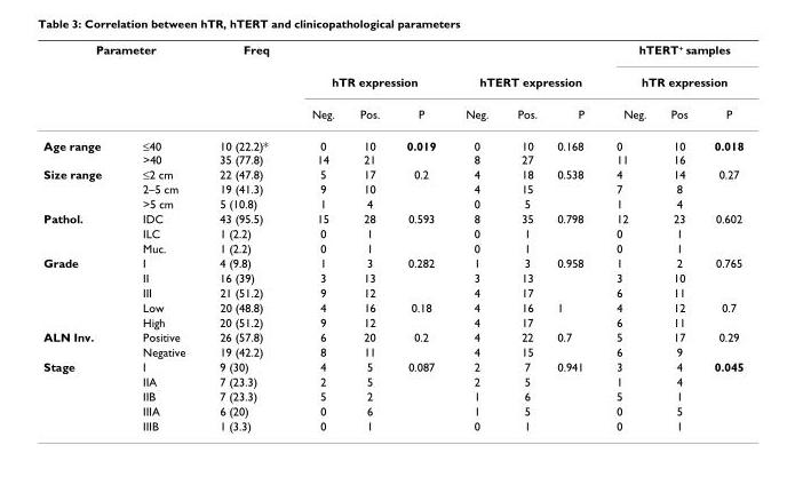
<table><thead><tr><td colspan="2">Parameter</td><td rowspan="3">Freq</td><td></td><td></td><td></td><td></td><td></td><td></td><td rowspan="2" colspan="3">hTERT<sup>+</sup> samples hTR expression</td></tr><tr><td rowspan="2"></td><td rowspan="2"></td><td colspan="3">hTR expression</td><td colspan="3">hTERT expression</td></tr><tr><td>Neg.</td><td>Pos.</td><td>P</td><td>Neg.</td><td>Pos.</td><td>P</td><td>Neg.</td><td>Pos</td><td>P</td></tr></thead><tbody><tr><td>Age range</td><td>≤40 &gt;40</td><td>10 (22.2)* 35 (77.8)</td><td>0 14</td><td>10 21</td><td>0.019</td><td>0 8</td><td>10 27</td><td>0.168</td><td>0 11</td><td>10 16</td><td>0.018</td></tr><tr><td rowspan="3">Size range</td><td>≤2 cm</td><td>22 (47.8)</td><td>5</td><td>17</td><td>0.2</td><td>4</td><td>18</td><td>0.538</td><td>4</td><td>14</td><td>0.27</td></tr><tr><td>2–5 cm</td><td>19 (41.3)</td><td>9</td><td>10</td><td></td><td>4</td><td>15</td><td></td><td>7</td><td>8</td><td></td></tr><tr><td>&gt;5 cm</td><td>5 (10.8)</td><td>1</td><td>4</td><td></td><td>0</td><td>5</td><td></td><td>1</td><td>4</td><td></td></tr><tr><td rowspan="3">Pathol.</td><td>IDC</td><td>43 (95.5)</td><td>15</td><td>28</td><td>0.593</td><td>8</td><td>35</td><td>0.798</td><td>12</td><td>23</td><td>0.602</td></tr><tr><td>ILC</td><td>1 (2.2)</td><td>0</td><td>1</td><td></td><td>0</td><td>1</td><td></td><td>0</td><td>1</td><td></td></tr><tr><td>Muc.</td><td>1 (2.2)</td><td>0</td><td>1</td><td></td><td>0</td><td>1</td><td></td><td>0</td><td>1</td><td></td></tr><tr><td rowspan="5">Grade</td><td>I</td><td>4 (9.8)</td><td>1</td><td>3</td><td>0.282</td><td>1</td><td>3</td><td>0.958</td><td>1</td><td>2</td><td>0.765</td></tr><tr><td>II</td><td>16 (39)</td><td>3</td><td>13</td><td></td><td>3</td><td>13</td><td></td><td>3</td><td>10</td><td></td></tr><tr><td>III</td><td>21 (51.2)</td><td>9</td><td>12</td><td></td><td>4</td><td>17</td><td></td><td>6</td><td>11</td><td></td></tr><tr><td>Low</td><td>20 (48.8)</td><td>4</td><td>16</td><td>0.18</td><td>4</td><td>16</td><td>1</td><td>4</td><td>12</td><td>0.7</td></tr><tr><td>High</td><td>20 (51.2)</td><td>9</td><td>12</td><td></td><td>4</td><td>17</td><td></td><td>6</td><td>11</td><td></td></tr><tr><td rowspan="2">ALN Inv.</td><td>Positive</td><td>26 (57.8)</td><td>6</td><td>20</td><td>0.2</td><td>4</td><td>22</td><td>0.7</td><td>5</td><td>17</td><td>0.29</td></tr><tr><td>Negative</td><td>19 (42.2)</td><td>8</td><td>11</td><td></td><td>4</td><td>15</td><td></td><td>6</td><td>9</td><td></td></tr><tr><td rowspan="5">Stage</td><td>I</td><td>9 (30)</td><td>4</td><td>5</td><td>0.087</td><td>2</td><td>7</td><td>0.941</td><td>3</td><td>4</td><td>0.045</td></tr><tr><td>IIA</td><td>7 (23.3)</td><td>2</td><td>5</td><td></td><td>2</td><td>5</td><td></td><td>1</td><td>4</td><td></td></tr><tr><td>IIB</td><td>7 (23.3)</td><td>5</td><td>2</td><td></td><td>1</td><td>6</td><td></td><td>5</td><td>1</td><td></td></tr><tr><td>IIIA</td><td>6 (20)</td><td>0</td><td>6</td><td></td><td>1</td><td>5</td><td></td><td>0</td><td>5</td><td></td></tr><tr><td>IIIB</td><td>1 (3.3)</td><td>0</td><td>1</td><td></td><td>0</td><td>1</td><td></td><td>0</td><td>1</td><td></td></tr></tbody></table>